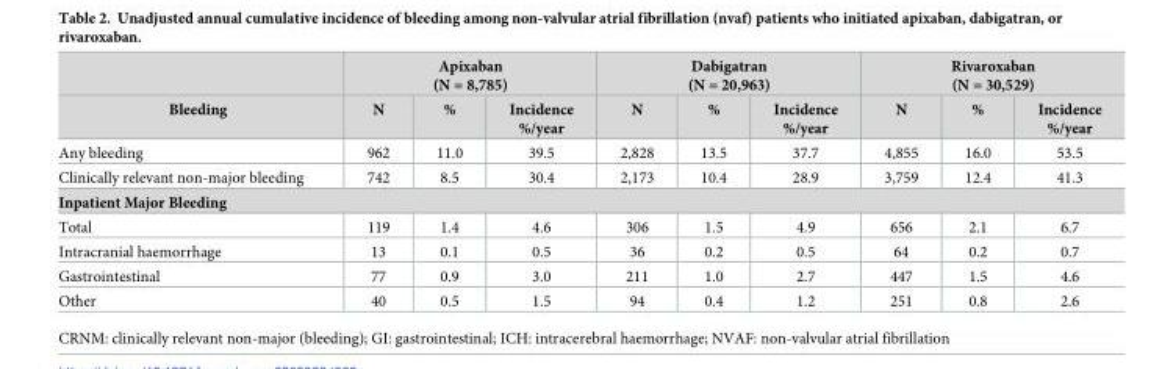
<table><thead><tr><td rowspan="2">Bleeding</td><td colspan="3">Apixaban (N = 8,785)</td><td colspan="3">Dabigatran (N = 20,963)</td><td colspan="3">Rivaroxaban (N = 30,529)</td></tr><tr><td>N</td><td>%</td><td>Incidence %/year</td><td>N</td><td>%</td><td>Incidence %/year</td><td>N</td><td>%</td><td>Incidence %/year</td></tr></thead><tbody><tr><td>Any bleeding</td><td>962</td><td>11.0</td><td>39.5</td><td>2,828</td><td>13.5</td><td>37.7</td><td>4,855</td><td>16.0</td><td>53.5</td></tr><tr><td>Clinically relevant non-major bleeding</td><td>742</td><td>8.5</td><td>30.4</td><td>2,173</td><td>10.4</td><td>28.9</td><td>3,759</td><td>12.4</td><td>41.3</td></tr><tr><td colspan="10">Inpatient Major Bleeding</td></tr><tr><td>Total</td><td>119</td><td>1.4</td><td>4.6</td><td>306</td><td>1.5</td><td>4.9</td><td>656</td><td>2.1</td><td>6.7</td></tr><tr><td>Intracranial haemorrhage</td><td>13</td><td>0.1</td><td>0.5</td><td>36</td><td>0.2</td><td>0.5</td><td>64</td><td>0.2</td><td>0.7</td></tr><tr><td>Gastrointestinal</td><td>77</td><td>0.9</td><td>3.0</td><td>211</td><td>1.0</td><td>2.7</td><td>447</td><td>1.5</td><td>4.6</td></tr><tr><td>Other</td><td>40</td><td>0.5</td><td>1.5</td><td>94</td><td>0.4</td><td>1.2</td><td>251</td><td>0.8</td><td>2.6</td></tr></tbody></table>